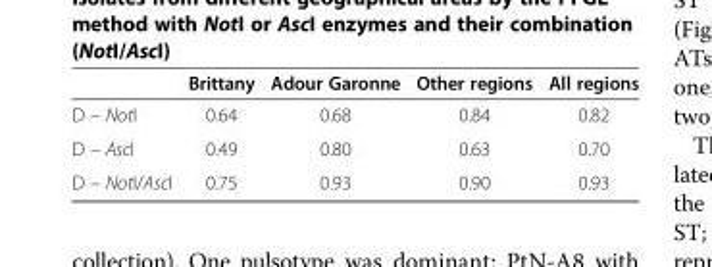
<table><thead><tr><td></td><td>Brittany</td><td>Adour Garonne</td><td>Other regions</td><td>All regions</td></tr></thead><tbody><tr><td>D – NotI</td><td>0.64</td><td>0.68</td><td>0.84</td><td>0.82</td></tr><tr><td>D – AscI</td><td>0.49</td><td>0.80</td><td>0.63</td><td>0.70</td></tr><tr><td>D – NotI/AscI</td><td>0.75</td><td>0.93</td><td>0.90</td><td>0.93</td></tr></tbody></table>